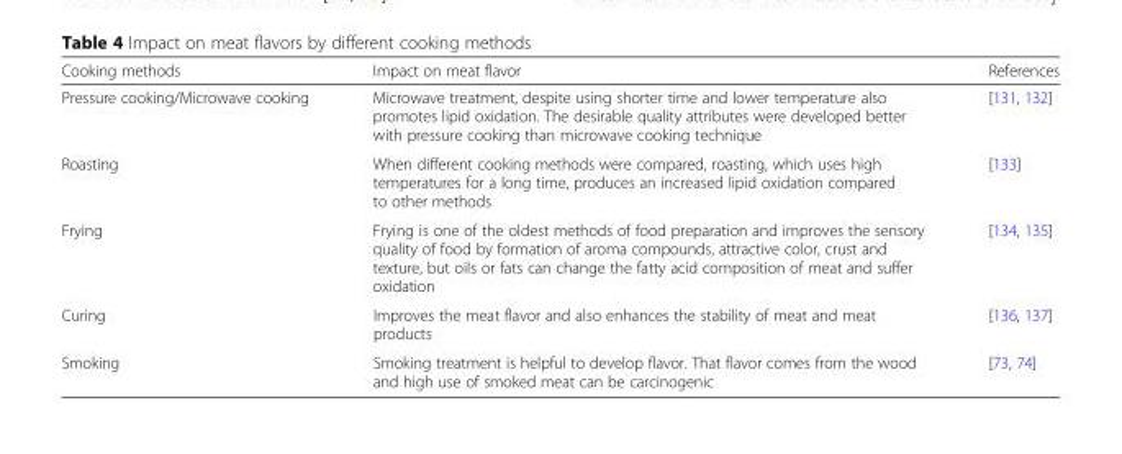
<table><thead><tr><td>Cooking methods</td><td>Impact on meat flavor</td><td>References</td></tr></thead><tbody><tr><td>Pressure cooking/Microwave cooking</td><td>Microwave treatment, despite using shorter time and lower temperature also promotes lipid oxidation. The desirable quality attributes were developed better with pressure cooking than microwave cooking technique</td><td>[131, 132]</td></tr><tr><td>Roasting</td><td>When different cooking methods were compared, roasting, which uses high temperatures for a long time, produces an increased lipid oxidation compared to other methods</td><td>[133]</td></tr><tr><td>Frying</td><td>Frying is one of the oldest methods of food preparation and improves the sensory quality of food by formation of aroma compounds, attractive color, crust and texture, but oils or fats can change the fatty acid composition of meat and suffer oxidation</td><td>[134, 135]</td></tr><tr><td>Curing</td><td>Improves the meat flavor and also enhances the stability of meat and meat products</td><td>[136, 137]</td></tr><tr><td>Smoking</td><td>Smoking treatment is helpful to develop flavor. That flavor comes from the wood and high use of smoked meat can be carcinogenic</td><td>[73, 74]</td></tr></tbody></table>